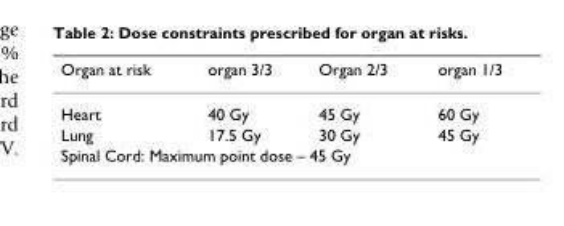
<table><thead><tr><td>Organ at risk</td><td>organ 3/3</td><td>Organ 2/3</td><td>organ 1/3</td></tr></thead><tbody><tr><td>Heart</td><td>40 Gy</td><td>45 Gy</td><td>60 Gy</td></tr><tr><td>Lung</td><td>17.5 Gy</td><td>30 Gy</td><td>45 Gy</td></tr><tr><td colspan="4">Spinal Cord: Maximum point dose – 45 Gy</td></tr></tbody></table>